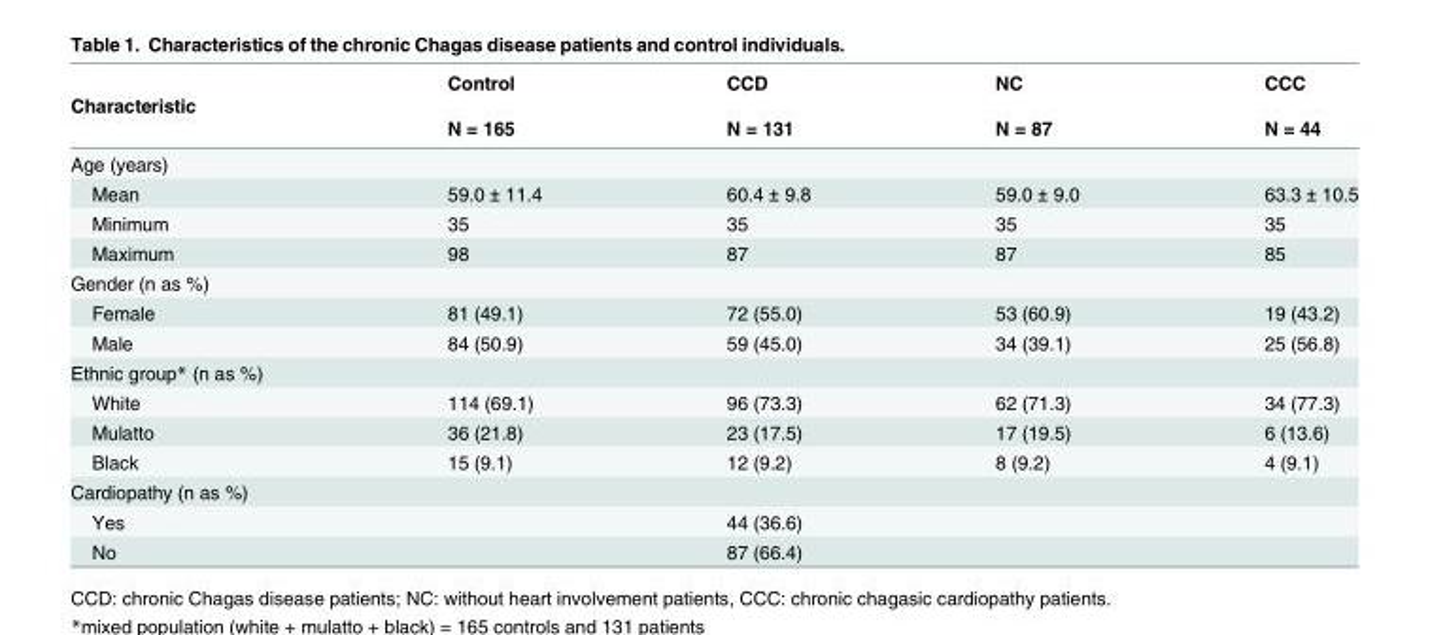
<table><thead><tr><td rowspan="3">Characteristic</td><td rowspan="3">Control N = 165</td><td rowspan="3">CCD N = 131</td><td rowspan="3">NC N = 87</td><td rowspan="3">CCC N = 44</td></tr><tr></tr><tr></tr></thead><tbody><tr><td colspan="5">Age (years)</td></tr><tr><td>Mean</td><td>59.0 ± 11.4</td><td>60.4 ± 9.8</td><td>59.0 ± 9.0</td><td>63.3 ± 10.5</td></tr><tr><td>Minimum</td><td>35</td><td>35</td><td>35</td><td>35</td></tr><tr><td>Maximum</td><td>98</td><td>87</td><td>87</td><td>85</td></tr><tr><td colspan="5">Gender (n as %)</td></tr><tr><td>Female</td><td>81 (49.1)</td><td>72 (55.0)</td><td>53 (60.9)</td><td>19 (43.2)</td></tr><tr><td>Male</td><td>84 (50.9)</td><td>59 (45.0)</td><td>34 (39.1)</td><td>25 (56.8)</td></tr><tr><td colspan="5">Ethnic group* (n as %)</td></tr><tr><td>White</td><td>114 (69.1)</td><td>96 (73.3)</td><td>62 (71.3)</td><td>34 (77.3)</td></tr><tr><td>Mulatto</td><td>36 (21.8)</td><td>23 (17.5)</td><td>17 (19.5)</td><td>6 (13.6)</td></tr><tr><td>Black</td><td>15 (9.1)</td><td>12 (9.2)</td><td>8 (9.2)</td><td>4 (9.1)</td></tr><tr><td colspan="5">Cardiopathy (n as %)</td></tr><tr><td>Yes</td><td></td><td>44 (36.6)</td><td></td><td></td></tr><tr><td>No</td><td></td><td>87 (66.4)</td><td></td><td></td></tr></tbody></table>